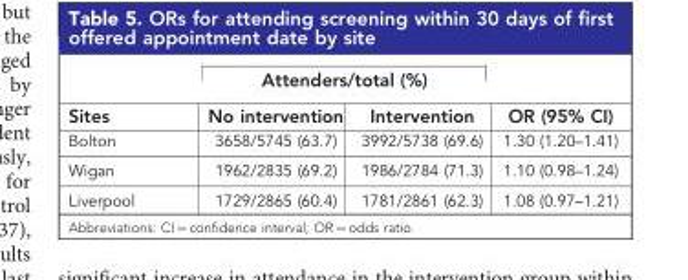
<table><thead><tr><td rowspan="2">Sites</td><td colspan="2">Attenders/total (%)</td><td rowspan="2">OR (95% CI)</td></tr><tr><td>No intervention</td><td>Intervention</td></tr></thead><tbody><tr><td>Bolton</td><td>3658/5745 (63.7)</td><td>3992/5738 (69.6)</td><td>1.30 (1.20–1.41)</td></tr><tr><td>Wigan</td><td>1962/2835 (69.2)</td><td>1986/2784 (71.3)</td><td>1.10 (0.98–1.24)</td></tr><tr><td>Liverpool</td><td>1729/2865 (60.4)</td><td>1781/2861 (62.3)</td><td>1.08 (0.97–1.21)</td></tr></tbody></table>